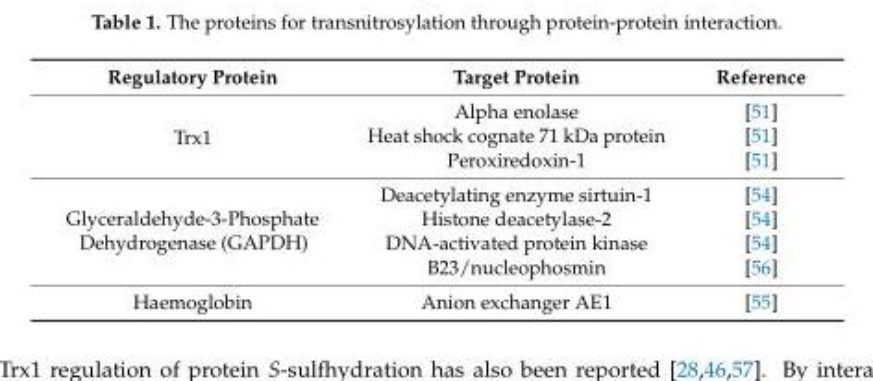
<table><thead><tr><td>Regulatory Protein</td><td>Target Protein</td><td>Reference</td></tr></thead><tbody><tr><td rowspan="3">Trx1</td><td>Alpha enolase</td><td>[51]</td></tr><tr><td>Heat shock cognate 71 kDa protein</td><td>[51]</td></tr><tr><td>Peroxiredoxin-1</td><td>[51]</td></tr><tr><td rowspan="4">Glyceraldehyde-3-Phosphate Dehydrogenase (GAPDH)</td><td>Deacetylating enzyme sirtuin-1</td><td>[54]</td></tr><tr><td>Histone deacetylase-2</td><td>[54]</td></tr><tr><td>DNA-activated protein kinase</td><td>[54]</td></tr><tr><td>B23/nucleophosmin</td><td>[56]</td></tr><tr><td>Haemoglobin</td><td>Anion exchanger AE1</td><td>[55]</td></tr></tbody></table>